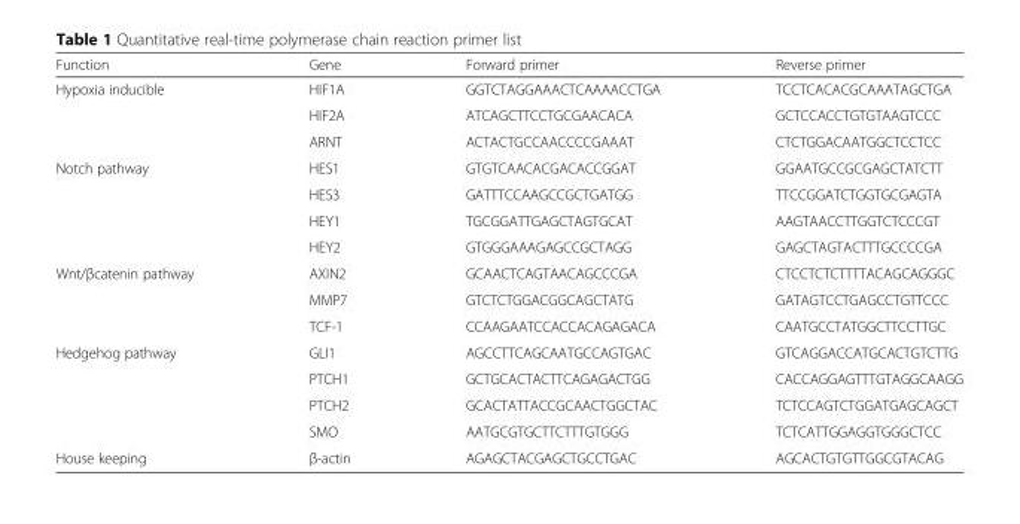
<table><thead><tr><td>Function</td><td>Gene</td><td>Forward primer</td><td>Reverse primer</td></tr></thead><tbody><tr><td rowspan="3">Hypoxia inducible</td><td>HIF1A</td><td>GGTCTAGGAAACTCAAAACCTGA</td><td>TCCTCACACGCAAATAGCTGA</td></tr><tr><td>HIF2A</td><td>ATCAGCTTCCTGCGAACACA</td><td>GCTCCACCTGTGTAAGTCCC</td></tr><tr><td>ARNT</td><td>ACTACTGCCAACCCCGAAAT</td><td>CTCTGGACAATGGCTCCTCC</td></tr><tr><td rowspan="4">Notch pathway</td><td>HES1</td><td>GTGTCAACACGACACCGGAT</td><td>GGAATGCCGCGAGCTATCTT</td></tr><tr><td>HES3</td><td>GATTTCCAAGCCGCTGATGG</td><td>TTCCGGATCTGGTGCGAGTA</td></tr><tr><td>HEY1</td><td>TGCGGATTGAGCTAGTGCAT</td><td>AAGTAACCTTGGTCTCCCGT</td></tr><tr><td>HEY2</td><td>GTGGGAAAGAGCCGCTAGG</td><td>GAGCTAGTACTTTGCCCCGA</td></tr><tr><td rowspan="3">Wnt/βcatenin pathway</td><td>AXIN2</td><td>GCAACTCAGTAACAGCCCGA</td><td>CTCCTCTCTTTTACAGCAGGGC</td></tr><tr><td>MMP7</td><td>GTCTCTGGACGGCAGCTATG</td><td>GATAGTCCTGAGCCTGTTCCC</td></tr><tr><td>TCF-1</td><td>CCAAGAATCCACCACAGAGACA</td><td>CAATGCCTATGGCTTCCTTGC</td></tr><tr><td rowspan="4">Hedgehog pathway</td><td>GLI1</td><td>AGCCTTCAGCAATGCCAGTGAC</td><td>GTCAGGACCATGCACTGTCTTG</td></tr><tr><td>PTCH1</td><td>GCTGCACTACTTCAGAGACTGG</td><td>CACCAGGAGTTTGTAGGCAAGG</td></tr><tr><td>PTCH2</td><td>GCACTATTACCGCAACTGGCTAC</td><td>TCTCCAGTCTGGATGAGCAGCT</td></tr><tr><td>SMO</td><td>AATGCGTGCTTCTTTGTGGG</td><td>TCTCATTGGAGGTGGGCTCC</td></tr><tr><td>House keeping</td><td>β-actin</td><td>AGAGCTACGAGCTGCCTGAC</td><td>AGCACTGTGTTGGCGTACAG</td></tr></tbody></table>